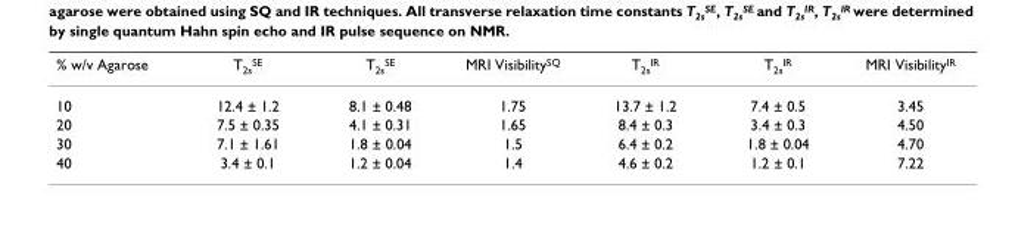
<table><thead><tr><td>% w/v Agarose</td><td>T<sub>2s</sub><sup>SE</sup></td><td>T<sub>2s</sub><sup>SE</sup></td><td>MRI Visibility<sup>SQ</sup></td><td>T<sub>2s</sub><sup>IR</sup></td><td>T<sub>2s</sub><sup>IR</sup></td><td>MRI Visibility<sup>IR</sup></td></tr></thead><tbody><tr><td>10</td><td>12.4 ± 1.2</td><td>8.1 ± 0.48</td><td>1.75</td><td>13.7 ± 1.2</td><td>7.4 ± 0.5</td><td>3.45</td></tr><tr><td>20</td><td>7.5 ± 0.35</td><td>4.1 ± 0.31</td><td>1.65</td><td>8.4 ± 0.3</td><td>3.4 ± 0.3</td><td>4.50</td></tr><tr><td>30</td><td>7.1 ± 1.61</td><td>1.8 ± 0.04</td><td>1.5</td><td>6.4 ± 0.2</td><td>1.8 ± 0.04</td><td>4.70</td></tr><tr><td>40</td><td>3.4 ± 0.1</td><td>1.2 ± 0.04</td><td>1.4</td><td>4.6 ± 0.2</td><td>1.2 ± 0.1</td><td>7.22</td></tr></tbody></table>